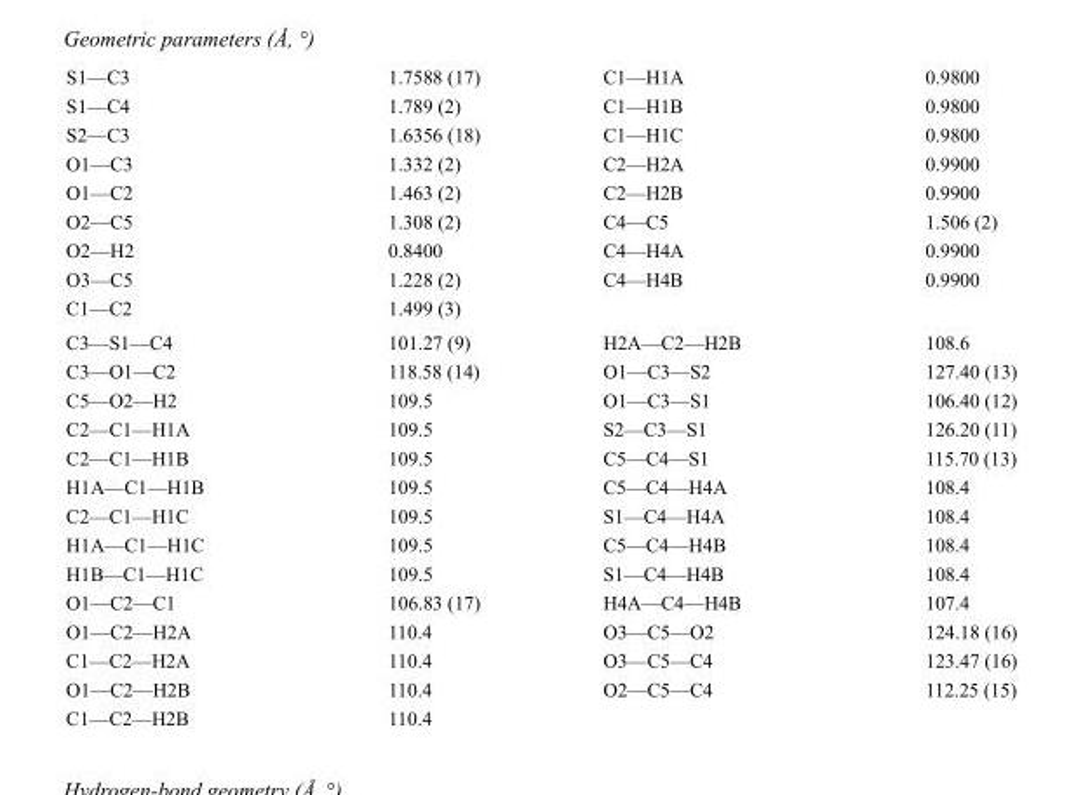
<table><tbody><tr><td>S1—C3</td><td>1.7588 (17)</td><td>C1—H1A</td><td>0.9800</td></tr><tr><td>S1—C4</td><td>1.789 (2)</td><td>C1—H1B</td><td>0.9800</td></tr><tr><td>S2—C3</td><td>1.6356 (18)</td><td>C1—H1C</td><td>0.9800</td></tr><tr><td>O1—C3</td><td>1.332 (2)</td><td>C2—H2A</td><td>0.9900</td></tr><tr><td>O1—C2</td><td>1.463 (2)</td><td>C2—H2B</td><td>0.9900</td></tr><tr><td>O2—C5</td><td>1.308 (2)</td><td>C4—C5</td><td>1.506 (2)</td></tr><tr><td>O2—H2</td><td>0.8400</td><td>C4—H4A</td><td>0.9900</td></tr><tr><td>O3—C5</td><td>1.228 (2)</td><td>C4—H4B</td><td>0.9900</td></tr><tr><td>C1—C2</td><td>1.499 (3)</td><td></td><td></td></tr><tr><td>C3—S1—C4</td><td>101.27 (9)</td><td>H2A—C2—H2B</td><td>108.6</td></tr><tr><td>C3—O1—C2</td><td>118.58 (14)</td><td>O1—C3—S2</td><td>127.40 (13)</td></tr><tr><td>C5—O2—H2</td><td>109.5</td><td>O1—C3—S1</td><td>106.40 (12)</td></tr><tr><td>C2—C1—H1A</td><td>109.5</td><td>S2—C3—S1</td><td>126.20 (11)</td></tr><tr><td>C2—C1—H1B</td><td>109.5</td><td>C5—C4—S1</td><td>115.70 (13)</td></tr><tr><td>H1A—C1—H1B</td><td>109.5</td><td>C5—C4—H4A</td><td>108.4</td></tr><tr><td>C2—C1—H1C</td><td>109.5</td><td>S1—C4—H4A</td><td>108.4</td></tr><tr><td>H1A—C1—H1C</td><td>109.5</td><td>C5—C4—H4B</td><td>108.4</td></tr><tr><td>H1B—C1—H1C</td><td>109.5</td><td>S1—C4—H4B</td><td>108.4</td></tr><tr><td>O1—C2—C1</td><td>106.83 (17)</td><td>H4A—C4—H4B</td><td>107.4</td></tr><tr><td>O1—C2—H2A</td><td>110.4</td><td>O3—C5—O2</td><td>124.18 (16)</td></tr><tr><td>C1—C2—H2A</td><td>110.4</td><td>O3—C5—C4</td><td>123.47 (16)</td></tr><tr><td>O1—C2—H2B</td><td>110.4</td><td>O2—C5—C4</td><td>112.25 (15)</td></tr><tr><td>C1—C2—H2B</td><td>110.4</td><td></td><td></td></tr></tbody></table>